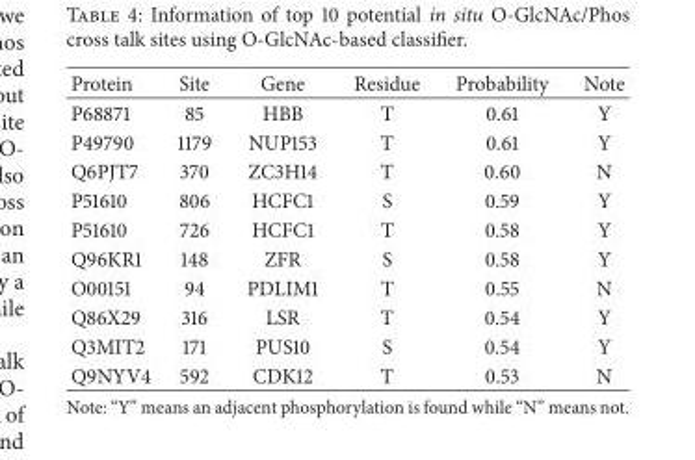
<table><thead><tr><td>Protein</td><td>Site</td><td>Gene</td><td>Residue</td><td>Probability</td><td>Note</td></tr></thead><tbody><tr><td>P68871</td><td>85</td><td>HBB</td><td>T</td><td>0.61</td><td>Y</td></tr><tr><td>P49790</td><td>1179</td><td>NUP153</td><td>T</td><td>0.61</td><td>Y</td></tr><tr><td>Q6PJT7</td><td>370</td><td>ZC3H14</td><td>T</td><td>0.60</td><td>N</td></tr><tr><td>P51610</td><td>806</td><td>HCFC1</td><td>S</td><td>0.59</td><td>Y</td></tr><tr><td>P51610</td><td>726</td><td>HCFC1</td><td>T</td><td>0.58</td><td>Y</td></tr><tr><td>Q96KR1</td><td>148</td><td>ZFR</td><td>S</td><td>0.58</td><td>Y</td></tr><tr><td>O00151</td><td>94</td><td>PDLIM1</td><td>T</td><td>0.55</td><td>N</td></tr><tr><td>Q86X29</td><td>316</td><td>LSR</td><td>T</td><td>0.54</td><td>Y</td></tr><tr><td>Q3MIT2</td><td>171</td><td>PUS10</td><td>S</td><td>0.54</td><td>Y</td></tr><tr><td>Q9NYV4</td><td>592</td><td>CDK12</td><td>T</td><td>0.53</td><td>N</td></tr></tbody></table>